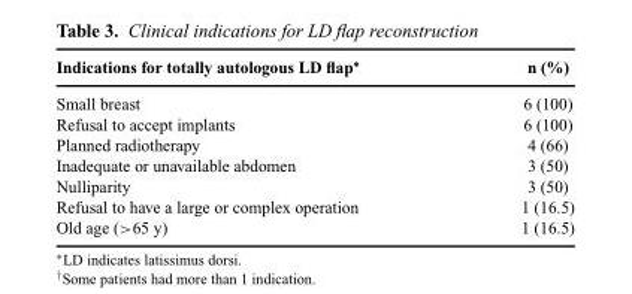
<table><thead><tr><td>Indications for totally autologous LD flap∗</td><td>n (%)</td></tr></thead><tbody><tr><td>Small breast</td><td>6 (100)</td></tr><tr><td>Refusal to accept implants</td><td>6 (100)</td></tr><tr><td>Planned radiotherapy</td><td>4 (66)</td></tr><tr><td>Inadequate or unavailable abdomen</td><td>3 (50)</td></tr><tr><td>Nulliparity</td><td>3 (50)</td></tr><tr><td>Refusal to have a large or complex operation</td><td>1 (16.5)</td></tr><tr><td>Old age (&gt;65 y)</td><td>1 (16.5)</td></tr></tbody></table>